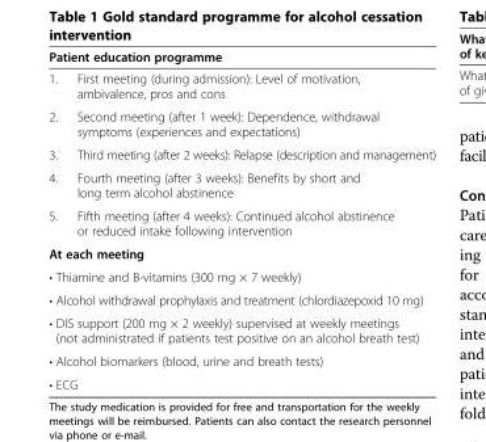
<table><thead><tr><td colspan="2">Patient education programme</td></tr><tr><td>1.</td><td>First meeting (during admission): Level of motivation, ambivalence, pros and cons</td></tr></thead><tbody><tr><td>2.</td><td>Second meeting (after 1 week): Dependence, withdrawal symptoms (experiences and expectations)</td></tr><tr><td>3.</td><td>Third meeting (after 2 weeks): Relapse (description and management)</td></tr><tr><td>4.</td><td>Fourth meeting (after 3 weeks): Benefits by short and long term alcohol abstinence</td></tr><tr><td>5.</td><td>Fifth meeting (after 4 weeks): Continued alcohol abstinence or reduced intake following intervention</td></tr><tr><td colspan="2">At each meeting</td></tr><tr><td colspan="2">• Thiamine and B-vitamins (300 mg × 7 weekly)</td></tr><tr><td colspan="2">• Alcohol withdrawal prophylaxis and treatment (chlordiazepoxid 10 mg)</td></tr><tr><td colspan="2">• DIS support (200 mg × 2 weekly) supervised at weekly meetings (not administrated if patients test positive on an alcohol breath test)</td></tr><tr><td colspan="2">• Alcohol biomarkers (blood, urine and breath tests)</td></tr><tr><td colspan="2">• ECG</td></tr></tbody></table>